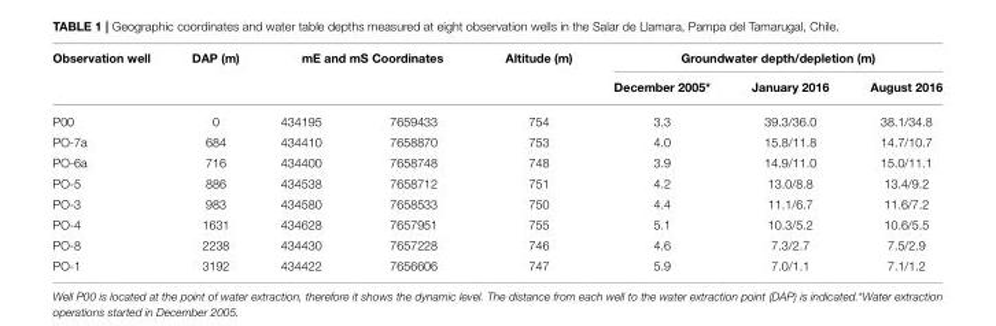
<table><thead><tr><td rowspan="2">Observation well</td><td rowspan="2">DAP (m)</td><td colspan="2">mE and mS Coordinates</td><td rowspan="2">Altitude (m)</td><td colspan="3">Groundwater depth/depletion (m)</td></tr><tr><td></td><td></td><td>December 2005*</td><td>January 2016</td><td>August 2016</td></tr></thead><tbody><tr><td>P00</td><td>0</td><td>434195</td><td>7659433</td><td>754</td><td>3.3</td><td>39.3/36.0</td><td>38.1/34.8</td></tr><tr><td>PO-7a</td><td>684</td><td>434410</td><td>7658870</td><td>753</td><td>4.0</td><td>15.8/11.8</td><td>14.7/10.7</td></tr><tr><td>PO-6a</td><td>716</td><td>434400</td><td>7658748</td><td>748</td><td>3.9</td><td>14.9/11.0</td><td>15.0/11.1</td></tr><tr><td>PO-5</td><td>886</td><td>434538</td><td>7658712</td><td>751</td><td>4.2</td><td>13.0/8.8</td><td>13.4/9.2</td></tr><tr><td>PO-3</td><td>983</td><td>434580</td><td>7658533</td><td>750</td><td>4.4</td><td>11.1/6.7</td><td>11.6/7.2</td></tr><tr><td>PO-4</td><td>1631</td><td>434628</td><td>7657951</td><td>755</td><td>5.1</td><td>10.3/5.2</td><td>10.6/5.5</td></tr><tr><td>PO-8</td><td>2238</td><td>434430</td><td>7657228</td><td>746</td><td>4.6</td><td>7.3/2.7</td><td>7.5/2.9</td></tr><tr><td>PO-1</td><td>3192</td><td>434422</td><td>7656606</td><td>747</td><td>5.9</td><td>7.0/1.1</td><td>7.1/1.2</td></tr></tbody></table>